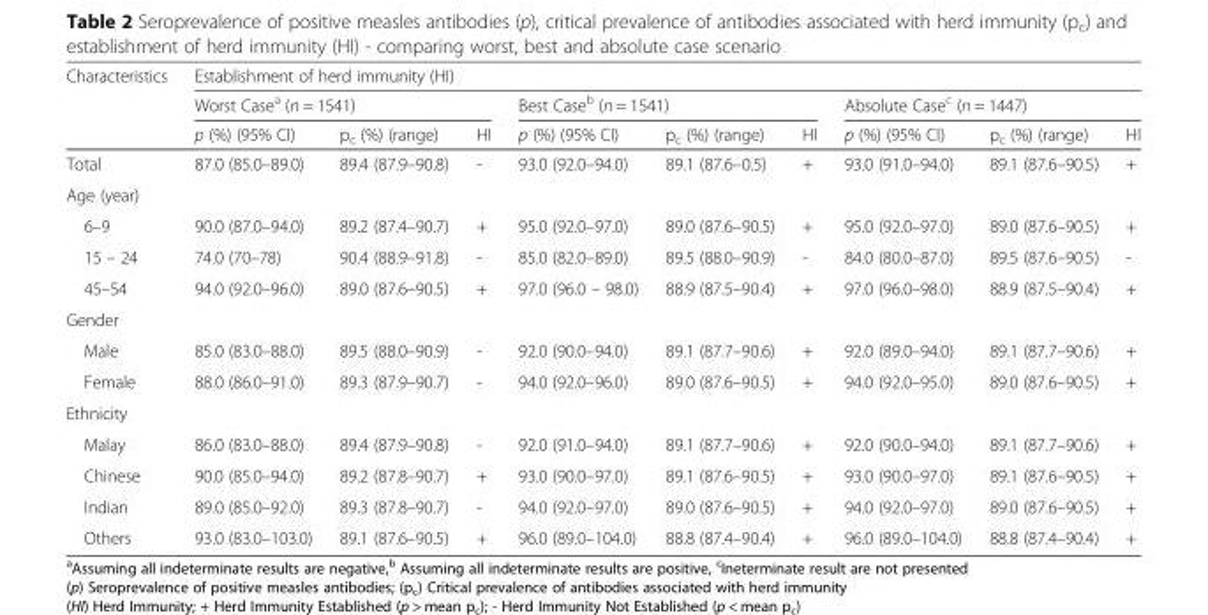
<table><thead><tr><td rowspan="3">Characteristics</td><td colspan="9">Establishment of herd immunity (HI)</td></tr><tr><td colspan="3">Worst Case<sup>a</sup> (n = 1541)</td><td colspan="3">Best Case<sup>b</sup> (n = 1541)</td><td colspan="3">Absolute Case<sup>c</sup> (n = 1447)</td></tr><tr><td>p (%) (95% CI)</td><td>p<sub>c</sub> (%) (range)</td><td>HI</td><td>p (%) (95% CI)</td><td>p<sub>c</sub> (%) (range)</td><td>HI</td><td>p (%) (95% CI)</td><td>p<sub>c</sub> (%) (range)</td><td>HI</td></tr></thead><tbody><tr><td>Total</td><td>87.0 (85.0–89.0)</td><td>89.4 (87.9–90.8)</td><td>-</td><td>93.0 (92.0–94.0)</td><td>89.1 (87.6–0.5)</td><td>+</td><td>93.0 (91.0–94.0)</td><td>89.1 (87.6–90.5)</td><td>+</td></tr><tr><td colspan="10">Age (year)</td></tr><tr><td>6–9</td><td>90.0 (87.0–94.0)</td><td>89.2 (87.4–90.7)</td><td>+</td><td>95.0 (92.0–97.0)</td><td>89.0 (87.6–90.5)</td><td>+</td><td>95.0 (92.0–97.0)</td><td>89.0 (87.6–90.5)</td><td>+</td></tr><tr><td>15 – 24</td><td>74.0 (70–78)</td><td>90.4 (88.9–91.8)</td><td>-</td><td>85.0 (82.0–89.0)</td><td>89.5 (88.0–90.9)</td><td>-</td><td>84.0 (80.0–87.0)</td><td>89.5 (87.6–90.5)</td><td>-</td></tr><tr><td>45–54</td><td>94.0 (92.0–96.0)</td><td>89.0 (87.6–90.5)</td><td>+</td><td>97.0 (96.0 – 98.0)</td><td>88.9 (87.5–90.4)</td><td>+</td><td>97.0 (96.0–98.0)</td><td>88.9 (87.5–90.4)</td><td>+</td></tr><tr><td colspan="10">Gender</td></tr><tr><td>Male</td><td>85.0 (83.0–88.0)</td><td>89.5 (88.0–90.9)</td><td>-</td><td>92.0 (90.0–94.0)</td><td>89.1 (87.7–90.6)</td><td>+</td><td>92.0 (89.0–94.0)</td><td>89.1 (87.7–90.6)</td><td>+</td></tr><tr><td>Female</td><td>88.0 (86.0–91.0)</td><td>89.3 (87.9–90.7)</td><td>-</td><td>94.0 (92.0–96.0)</td><td>89.0 (87.6–90.5)</td><td>+</td><td>94.0 (92.0–95.0)</td><td>89.0 (87.6–90.5)</td><td>+</td></tr><tr><td colspan="10">Ethnicity</td></tr><tr><td>Malay</td><td>86.0 (83.0–88.0)</td><td>89.4 (87.9–90.8)</td><td>-</td><td>92.0 (91.0–94.0)</td><td>89.1 (87.7–90.6)</td><td>+</td><td>92.0 (90.0–94.0)</td><td>89.1 (87.7–90.6)</td><td>+</td></tr><tr><td>Chinese</td><td>90.0 (85.0–94.0)</td><td>89.2 (87.8–90.7)</td><td>+</td><td>93.0 (90.0–97.0)</td><td>89.1 (87.6–90.5)</td><td>+</td><td>93.0 (90.0–97.0)</td><td>89.1 (87.6–90.5)</td><td>+</td></tr><tr><td>Indian</td><td>89.0 (85.0–92.0)</td><td>89.3 (87.8–90.7)</td><td>-</td><td>94.0 (92.0–97.0)</td><td>89.0 (87.6–90.5)</td><td>+</td><td>94.0 (92.0–97.0)</td><td>89.0 (87.6–90.5)</td><td>+</td></tr><tr><td>Others</td><td>93.0 (83.0–103.0)</td><td>89.1 (87.6–90.5)</td><td>+</td><td>96.0 (89.0–104.0)</td><td>88.8 (87.4–90.4)</td><td>+</td><td>96.0 (89.0–104.0)</td><td>88.8 (87.4–90.4)</td><td>+</td></tr></tbody></table>